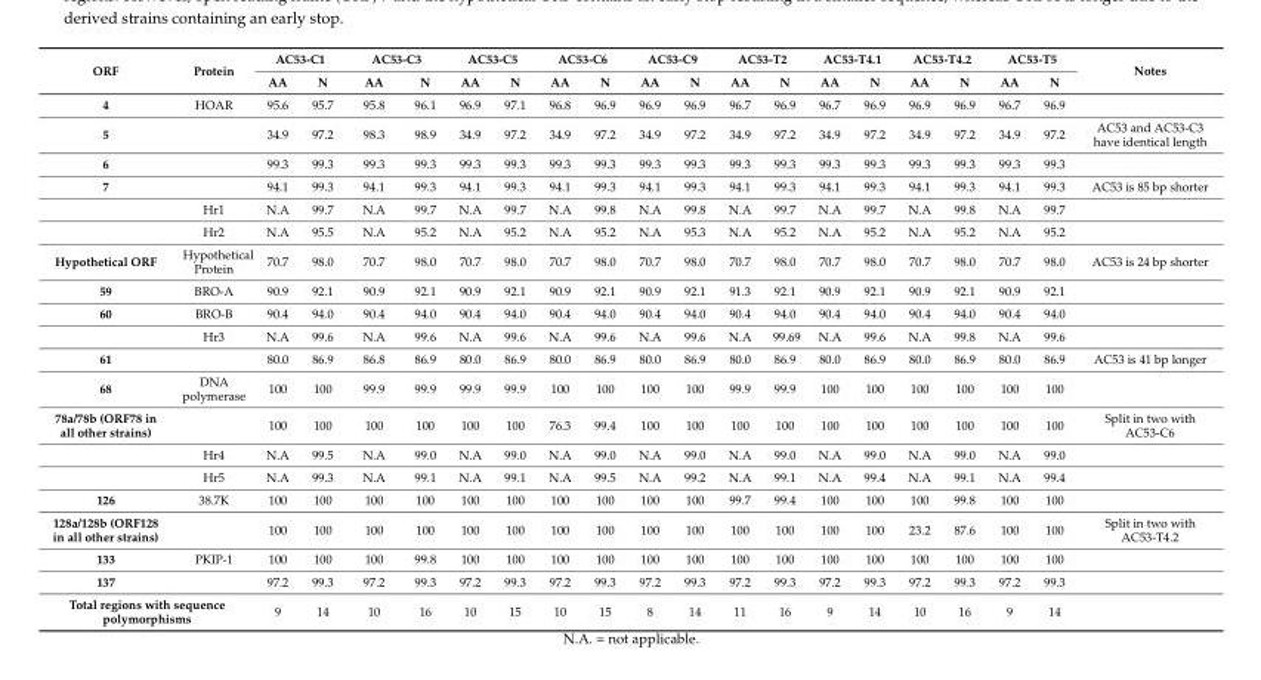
<table><thead><tr><td rowspan="2">ORF</td><td rowspan="2">Protein</td><td colspan="2">AC53-C1</td><td colspan="2">AC53-C3</td><td colspan="2">AC53-C5</td><td colspan="2">AC53-C6</td><td colspan="2">AC53-C9</td><td colspan="2">AC53-T2</td><td colspan="2">AC53-T4.1</td><td colspan="2">AC53-T4.2</td><td colspan="2">AC53-T5</td><td rowspan="2">Notes</td></tr><tr><td>AA</td><td>N</td><td>AA</td><td>N</td><td>AA</td><td>N</td><td>AA</td><td>N</td><td>AA</td><td>N</td><td>AA</td><td>N</td><td>AA</td><td>N</td><td>AA</td><td>N</td><td>AA</td><td>N</td></tr></thead><tbody><tr><td>4</td><td>HOAR</td><td>95.6</td><td>95.7</td><td>95.8</td><td>96.1</td><td>96.9</td><td>97.1</td><td>96.8</td><td>96.9</td><td>96.9</td><td>96.9</td><td>96.7</td><td>96.9</td><td>96.7</td><td>96.9</td><td>96.9</td><td>96.9</td><td>96.7</td><td>96.9</td><td></td></tr><tr><td>5</td><td></td><td>34.9</td><td>97.2</td><td>98.3</td><td>98.9</td><td>34.9</td><td>97.2</td><td>34.9</td><td>97.2</td><td>34.9</td><td>97.2</td><td>34.9</td><td>97.2</td><td>34.9</td><td>97.2</td><td>34.9</td><td>97.2</td><td>34.9</td><td>97.2</td><td>AC53 and AC53-C3 have identical length</td></tr><tr><td>6</td><td></td><td>99.3</td><td>99.3</td><td>99.3</td><td>99.3</td><td>99.3</td><td>99.3</td><td>99.3</td><td>99.3</td><td>99.3</td><td>99.3</td><td>99.3</td><td>99.3</td><td>99.3</td><td>99.3</td><td>99.3</td><td>99.3</td><td>99.3</td><td>99.3</td><td></td></tr><tr><td rowspan="3">7</td><td></td><td>94.1</td><td>99.3</td><td>94.1</td><td>99.3</td><td>94.1</td><td>99.3</td><td>94.1</td><td>99.3</td><td>94.1</td><td>99.3</td><td>94.1</td><td>99.3</td><td>94.1</td><td>99.3</td><td>94.1</td><td>99.3</td><td>94.1</td><td>99.3</td><td>AC53 is 85 bp shorter</td></tr><tr><td>Hr1</td><td>N.A</td><td>99.7</td><td>N.A</td><td>99.7</td><td>N.A</td><td>99.7</td><td>N.A</td><td>99.8</td><td>N.A</td><td>99.8</td><td>N.A</td><td>99.7</td><td>N.A</td><td>99.7</td><td>N.A</td><td>99.8</td><td>N.A</td><td>99.7</td><td></td></tr><tr><td>Hr2</td><td>N.A</td><td>95.5</td><td>N.A</td><td>95.2</td><td>N.A</td><td>95.2</td><td>N.A</td><td>95.2</td><td>N.A</td><td>95.3</td><td>N.A</td><td>95.2</td><td>N.A</td><td>95.2</td><td>N.A</td><td>95.2</td><td>N.A</td><td>95.2</td><td></td></tr><tr><td>Hypothetical ORF</td><td>Hypothetical Protein</td><td>70.7</td><td>98.0</td><td>70.7</td><td>98.0</td><td>70.7</td><td>98.0</td><td>70.7</td><td>98.0</td><td>70.7</td><td>98.0</td><td>70.7</td><td>98.0</td><td>70.7</td><td>98.0</td><td>70.7</td><td>98.0</td><td>70.7</td><td>98.0</td><td>AC53 is 24 bp shorter</td></tr><tr><td>59</td><td>BRO-A</td><td>90.9</td><td>92.1</td><td>90.9</td><td>92.1</td><td>90.9</td><td>92.1</td><td>90.9</td><td>92.1</td><td>90.9</td><td>92.1</td><td>91.3</td><td>92.1</td><td>90.9</td><td>92.1</td><td>90.9</td><td>92.1</td><td>90.9</td><td>92.1</td><td></td></tr><tr><td rowspan="2">60</td><td>BRO-B</td><td>90.4</td><td>94.0</td><td>90.4</td><td>94.0</td><td>90.4</td><td>94.0</td><td>90.4</td><td>94.0</td><td>90.4</td><td>94.0</td><td>90.4</td><td>94.0</td><td>90.4</td><td>94.0</td><td>90.4</td><td>94.0</td><td>90.4</td><td>94.0</td><td></td></tr><tr><td>Hr3</td><td>N.A</td><td>99.6</td><td>N.A</td><td>99.6</td><td>N.A</td><td>99.6</td><td>N.A</td><td>99.6</td><td>N.A</td><td>99.6</td><td>N.A</td><td>99.69</td><td>N.A</td><td>99.6</td><td>N.A</td><td>99.8</td><td>N.A</td><td>99.6</td><td></td></tr><tr><td>61</td><td></td><td>80.0</td><td>86.9</td><td>86.8</td><td>86.9</td><td>80.0</td><td>86.9</td><td>80.0</td><td>86.9</td><td>80.0</td><td>86.9</td><td>80.0</td><td>86.9</td><td>80.0</td><td>86.9</td><td>80.0</td><td>86.9</td><td>80.0</td><td>86.9</td><td>AC53 is 41 bp longer</td></tr><tr><td>68</td><td>DNA polymerase</td><td>100</td><td>100</td><td>99.9</td><td>99.9</td><td>99.9</td><td>99.9</td><td>100</td><td>100</td><td>100</td><td>100</td><td>99.9</td><td>99.9</td><td>100</td><td>100</td><td>100</td><td>100</td><td>100</td><td>100</td><td></td></tr><tr><td rowspan="3">78a/78b (ORF78 in all other strains)</td><td></td><td>100</td><td>100</td><td>100</td><td>100</td><td>100</td><td>100</td><td>76.3</td><td>99.4</td><td>100</td><td>100</td><td>100</td><td>100</td><td>100</td><td>100</td><td>100</td><td>100</td><td>100</td><td>100</td><td>Split in two with AC53-C6</td></tr><tr><td>Hr4</td><td>N.A</td><td>99.5</td><td>N.A</td><td>99.0</td><td>N.A</td><td>99.0</td><td>N.A</td><td>99.0</td><td>N.A</td><td>99.0</td><td>N.A</td><td>99.0</td><td>N.A</td><td>99.0</td><td>N.A</td><td>99.0</td><td>N.A</td><td>99.0</td><td></td></tr><tr><td>Hr5</td><td>N.A</td><td>99.3</td><td>N.A</td><td>99.1</td><td>N.A</td><td>99.1</td><td>N.A</td><td>99.5</td><td>N.A</td><td>99.2</td><td>N.A</td><td>99.1</td><td>N.A</td><td>99.4</td><td>N.A</td><td>99.1</td><td>N.A</td><td>99.4</td><td></td></tr><tr><td>126</td><td>38.7K</td><td>100</td><td>100</td><td>100</td><td>100</td><td>100</td><td>100</td><td>100</td><td>100</td><td>100</td><td>100</td><td>99.7</td><td>99.4</td><td>100</td><td>100</td><td>100</td><td>99.8</td><td>100</td><td>100</td><td></td></tr><tr><td>128a/128b (ORF128 in all other strains)</td><td></td><td>100</td><td>100</td><td>100</td><td>100</td><td>100</td><td>100</td><td>100</td><td>100</td><td>100</td><td>100</td><td>100</td><td>100</td><td>100</td><td>100</td><td>23.2</td><td>87.6</td><td>100</td><td>100</td><td>Split in two with AC53-T4.2</td></tr><tr><td>133</td><td>PKIP-1</td><td>100</td><td>100</td><td>100</td><td>99.8</td><td>100</td><td>100</td><td>100</td><td>100</td><td>100</td><td>100</td><td>100</td><td>100</td><td>100</td><td>100</td><td>100</td><td>100</td><td>100</td><td>100</td><td></td></tr><tr><td>137</td><td></td><td>97.2</td><td>99.3</td><td>97.2</td><td>99.3</td><td>97.2</td><td>99.3</td><td>97.2</td><td>99.3</td><td>97.2</td><td>99.3</td><td>97.2</td><td>99.3</td><td>97.2</td><td>99.3</td><td>97.2</td><td>99.3</td><td>97.2</td><td>99.3</td><td></td></tr><tr><td colspan="2">Total regions with sequence polymorphisms</td><td>9</td><td>14</td><td>10</td><td>16</td><td>10</td><td>15</td><td>10</td><td>15</td><td>8</td><td>14</td><td>11</td><td>16</td><td>9</td><td>14</td><td>10</td><td>16</td><td>9</td><td>14</td><td></td></tr></tbody></table>